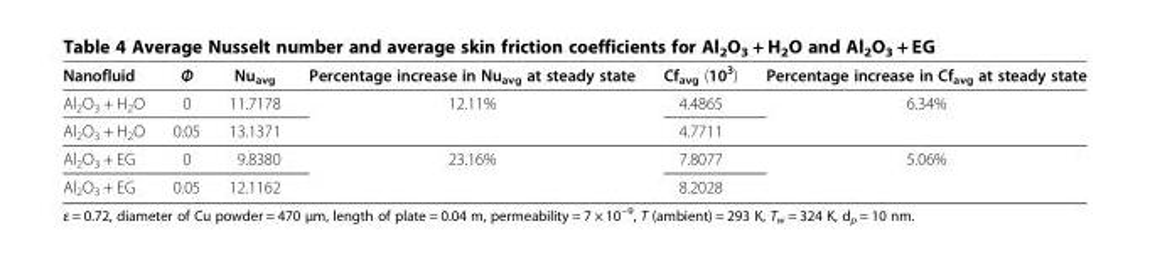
<table><thead><tr><td>Nanofluid</td><td>Φ</td><td>Nu<sub>avg</sub></td><td>Percentage increase in Nu<sub>avg</sub> at steady state</td><td>Cf<sub>avg</sub> (10<sup>3</sup>)</td><td>Percentage increase in Cf<sub>avg</sub> at steady state</td></tr></thead><tbody><tr><td>Al<sub>2</sub>O<sub>3</sub> + H<sub>2</sub>O</td><td>0</td><td>11.7178</td><td>12.11%</td><td>4.4865</td><td>6.34%</td></tr><tr><td>Al<sub>2</sub>O<sub>3</sub> + H<sub>2</sub>O</td><td>0.05</td><td>13.1371</td><td></td><td>4.7711</td><td></td></tr><tr><td>Al<sub>2</sub>O<sub>3</sub> + EG</td><td>0</td><td>9.8380</td><td>23.16%</td><td>7.8077</td><td>5.06%</td></tr><tr><td>Al<sub>2</sub>O<sub>3</sub> + EG</td><td>0.05</td><td>12.1162</td><td></td><td>8.2028</td><td></td></tr></tbody></table>